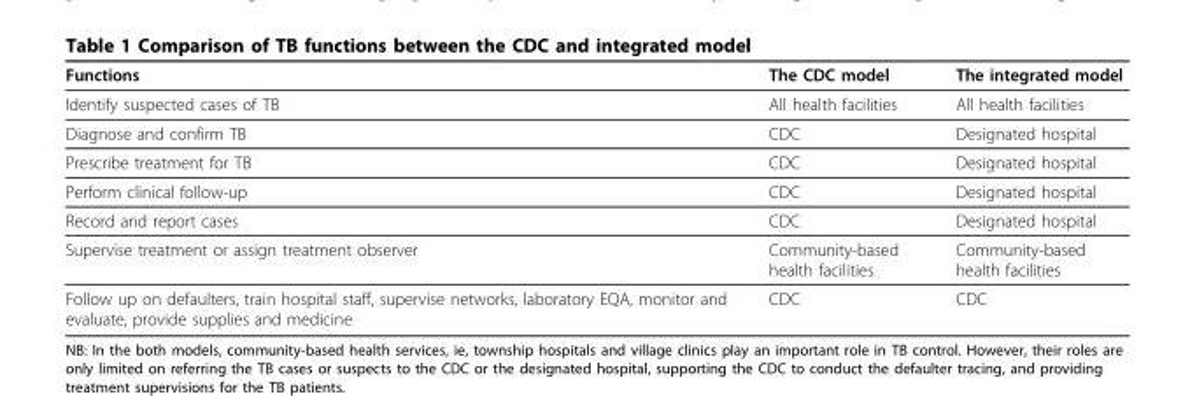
<table><thead><tr><td>Functions</td><td>The CDC model</td><td>The integrated model</td></tr></thead><tbody><tr><td>Identify suspected cases of TB</td><td>All health facilities</td><td>All health facilities</td></tr><tr><td>Diagnose and confirm TB</td><td>CDC</td><td>Designated hospital</td></tr><tr><td>Prescribe treatment for TB</td><td>CDC</td><td>Designated hospital</td></tr><tr><td>Perform clinical follow-up</td><td>CDC</td><td>Designated hospital</td></tr><tr><td>Record and report cases</td><td>CDC</td><td>Designated hospital</td></tr><tr><td>Supervise treatment or assign treatment observer</td><td>Community-based health facilities</td><td>Community-based health facilities</td></tr><tr><td>Follow up on defaulters, train hospital staff, supervise networks, laboratory EQA, monitor and evaluate, provide supplies and medicine</td><td>CDC</td><td>CDC</td></tr></tbody></table>